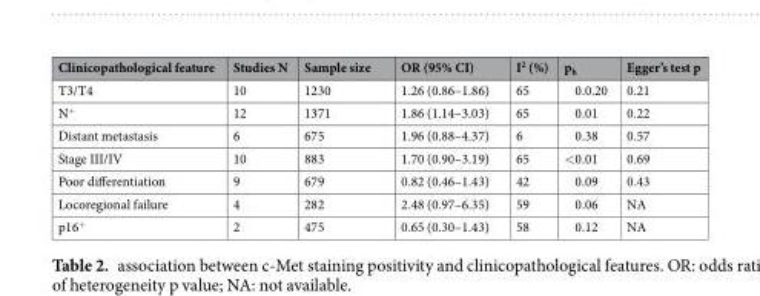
<table><thead><tr><td>Clinicopathological feature</td><td>Studies N</td><td>Sample size</td><td>OR (95% CI)</td><td>I<sup>2</sup> (%)</td><td>p<sub>h</sub></td><td>Egger’s test p</td></tr></thead><tbody><tr><td>T3/T4</td><td>10</td><td>1230</td><td>1.26 (0.86–1.86)</td><td>65</td><td>0.0.20</td><td>0.21</td></tr><tr><td>N<sup>+</sup></td><td>12</td><td>1371</td><td>1.86 (1.14–3.03)</td><td>65</td><td>0.01</td><td>0.22</td></tr><tr><td>Distant metastasis</td><td>6</td><td>675</td><td>1.96 (0.88–4.37)</td><td>6</td><td>0.38</td><td>0.57</td></tr><tr><td>Stage III/IV</td><td>10</td><td>883</td><td>1.70 (0.90–3.19)</td><td>65</td><td>&lt;0.01</td><td>0.69</td></tr><tr><td>Poor differentiation</td><td>9</td><td>679</td><td>0.82 (0.46–1.43)</td><td>42</td><td>0.09</td><td>0.43</td></tr><tr><td>Locoregional failure</td><td>4</td><td>282</td><td>2.48 (0.97–6.35)</td><td>59</td><td>0.06</td><td>NA</td></tr><tr><td>p16<sup>+</sup></td><td>2</td><td>475</td><td>0.65 (0.30–1.43)</td><td>58</td><td>0.12</td><td>NA</td></tr></tbody></table>